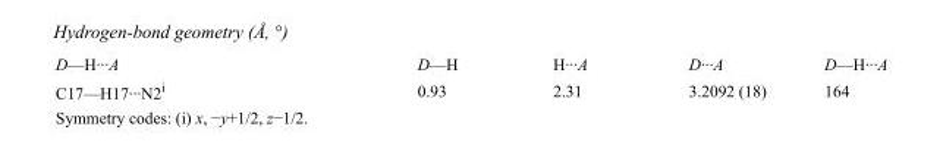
<table><tbody><tr><td>D—H···A</td><td>D—H</td><td>H···A</td><td>D···A</td><td>D—H···A</td></tr><tr><td>C17—H17···N2<sup>i</sup></td><td>0.93</td><td>2.31</td><td>3.2092 (18)</td><td>164</td></tr></tbody></table>